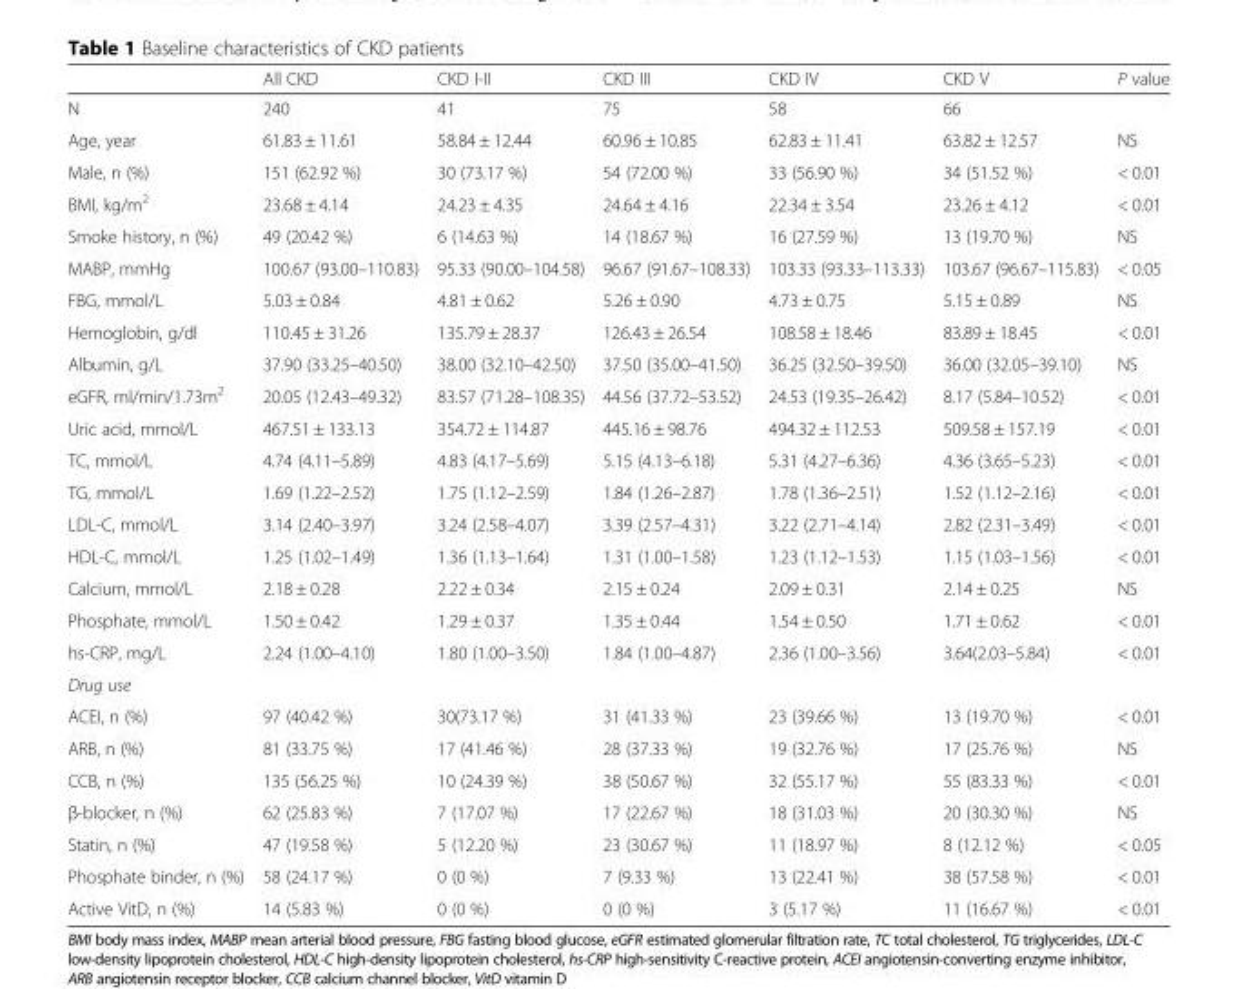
<table><thead><tr><td></td><td>All CKD</td><td>CKD I-II</td><td>CKD III</td><td>CKD IV</td><td>CKD V</td><td>P value</td></tr></thead><tbody><tr><td>N</td><td>240</td><td>41</td><td>75</td><td>58</td><td>66</td><td></td></tr><tr><td>Age, year</td><td>61.83 ± 11.61</td><td>58.84 ± 12.44</td><td>60.96 ± 10.85</td><td>62.83 ± 11.41</td><td>63.82 ± 12.57</td><td>NS</td></tr><tr><td>Male, n (%)</td><td>151 (62.92 %)</td><td>30 (73.17 %)</td><td>54 (72.00 %)</td><td>33 (56.90 %)</td><td>34 (51.52 %)</td><td>&lt; 0.01</td></tr><tr><td>BMI, kg/m<sup>2</sup></td><td>23.68 ± 4.14</td><td>24.23 ± 4.35</td><td>24.64 ± 4.16</td><td>22.34 ± 3.54</td><td>23.26 ± 4.12</td><td>&lt; 0.01</td></tr><tr><td>Smoke history, n (%)</td><td>49 (20.42 %)</td><td>6 (14.63 %)</td><td>14 (18.67 %)</td><td>16 (27.59 %)</td><td>13 (19.70 %)</td><td>NS</td></tr><tr><td>MABP, mmHg</td><td>100.67 (93.00–110.83)</td><td>95.33 (90.00–104.58)</td><td>96.67 (91.67–108.33)</td><td>103.33 (93.33–113.33)</td><td>103.67 (96.67–115.83)</td><td>&lt; 0.05</td></tr><tr><td>FBG, mmol/L</td><td>5.03 ± 0.84</td><td>4.81 ± 0.62</td><td>5.26 ± 0.90</td><td>4.73 ± 0.75</td><td>5.15 ± 0.89</td><td>NS</td></tr><tr><td>Hemoglobin, g/dl</td><td>110.45 ± 31.26</td><td>135.79 ± 28.37</td><td>126.43 ± 26.54</td><td>108.58 ± 18.46</td><td>83.89 ± 18.45</td><td>&lt; 0.01</td></tr><tr><td>Albumin, g/L</td><td>37.90 (33.25–40.50)</td><td>38.00 (32.10–42.50)</td><td>37.50 (35.00–41.50)</td><td>36.25 (32.50–39.50)</td><td>36.00 (32.05–39.10)</td><td>NS</td></tr><tr><td>eGFR, ml/min/1.73m<sup>2</sup></td><td>20.05 (12.43–49.32)</td><td>83.57 (71.28–108.35)</td><td>44.56 (37.72–53.52)</td><td>24.53 (19.35–26.42)</td><td>8.17 (5.84–10.52)</td><td>&lt; 0.01</td></tr><tr><td>Uric acid, mmol/L</td><td>467.51 ± 133.13</td><td>354.72 ± 114.87</td><td>445.16 ± 98.76</td><td>494.32 ± 112.53</td><td>509.58 ± 157.19</td><td>&lt; 0.01</td></tr><tr><td>TC, mmol/L</td><td>4.74 (4.11–5.89)</td><td>4.83 (4.17–5.69)</td><td>5.15 (4.13–6.18)</td><td>5.31 (4.27–6.36)</td><td>4.36 (3.65–5.23)</td><td>&lt; 0.01</td></tr><tr><td>TG, mmol/L</td><td>1.69 (1.22–2.52)</td><td>1.75 (1.12–2.59)</td><td>1.84 (1.26–2.87)</td><td>1.78 (1.36–2.51)</td><td>1.52 (1.12–2.16)</td><td>&lt; 0.01</td></tr><tr><td>LDL-C, mmol/L</td><td>3.14 (2.40–3.97)</td><td>3.24 (2.58–4.07)</td><td>3.39 (2.57–4.31)</td><td>3.22 (2.71–4.14)</td><td>2.82 (2.31–3.49)</td><td>&lt; 0.01</td></tr><tr><td>HDL-C, mmol/L</td><td>1.25 (1.02–1.49)</td><td>1.36 (1.13–1.64)</td><td>1.31 (1.00–1.58)</td><td>1.23 (1.12–1.53)</td><td>1.15 (1.03–1.56)</td><td>&lt; 0.01</td></tr><tr><td>Calcium, mmol/L</td><td>2.18 ± 0.28</td><td>2.22 ± 0.34</td><td>2.15 ± 0.24</td><td>2.09 ± 0.31</td><td>2.14 ± 0.25</td><td>NS</td></tr><tr><td>Phosphate, mmol/L</td><td>1.50 ± 0.42</td><td>1.29 ± 0.37</td><td>1.35 ± 0.44</td><td>1.54 ± 0.50</td><td>1.71 ± 0.62</td><td>&lt; 0.01</td></tr><tr><td>hs-CRP, mg/L</td><td>2.24 (1.00–4.10)</td><td>1.80 (1.00–3.50)</td><td>1.84 (1.00–4.87)</td><td>2.36 (1.00–3.56)</td><td>3.64(2.03–5.84)</td><td>&lt; 0.01</td></tr><tr><td colspan="7">Drug use</td></tr><tr><td>ACEI, n (%)</td><td>97 (40.42 %)</td><td>30(73.17 %)</td><td>31 (41.33 %)</td><td>23 (39.66 %)</td><td>13 (19.70 %)</td><td>&lt; 0.01</td></tr><tr><td>ARB, n (%)</td><td>81 (33.75 %)</td><td>17 (41.46 %)</td><td>28 (37.33 %)</td><td>19 (32.76 %)</td><td>17 (25.76 %)</td><td>NS</td></tr><tr><td>CCB, n (%)</td><td>135 (56.25 %)</td><td>10 (24.39 %)</td><td>38 (50.67 %)</td><td>32 (55.17 %)</td><td>55 (83.33 %)</td><td>&lt; 0.01</td></tr><tr><td>β-blocker, n (%)</td><td>62 (25.83 %)</td><td>7 (17.07 %)</td><td>17 (22.67 %)</td><td>18 (31.03 %)</td><td>20 (30.30 %)</td><td>NS</td></tr><tr><td>Statin, n (%)</td><td>47 (19.58 %)</td><td>5 (12.20 %)</td><td>23 (30.67 %)</td><td>11 (18.97 %)</td><td>8 (12.12 %)</td><td>&lt; 0.05</td></tr><tr><td>Phosphate binder, n (%)</td><td>58 (24.17 %)</td><td>0 (0 %)</td><td>7 (9.33 %)</td><td>13 (22.41 %)</td><td>38 (57.58 %)</td><td>&lt; 0.01</td></tr><tr><td>Active VitD, n (%)</td><td>14 (5.83 %)</td><td>0 (0 %)</td><td>0 (0 %)</td><td>3 (5.17 %)</td><td>11 (16.67 %)</td><td>&lt; 0.01</td></tr></tbody></table>